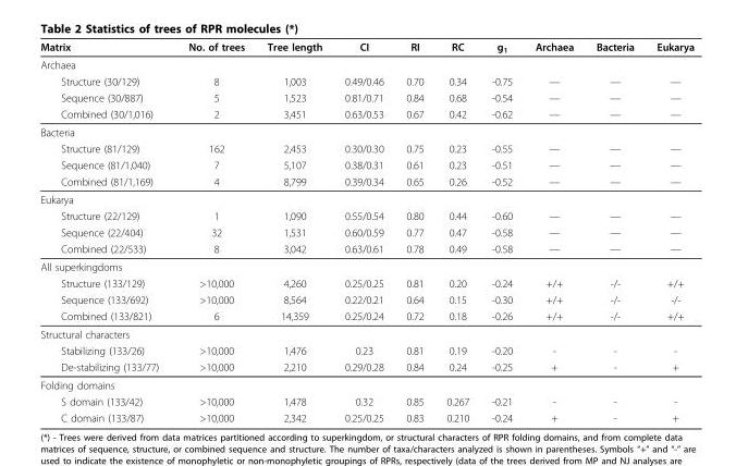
<table><thead><tr><td>Matrix</td><td>No. of trees</td><td>Tree length</td><td>CI</td><td>RI</td><td>RC</td><td>g1</td><td>Archaea</td><td>Bacteria</td><td>Eukarya</td></tr></thead><tbody><tr><td colspan="10">Archaea</td></tr><tr><td>Structure (30/129)</td><td>8</td><td>1,003</td><td>0.49/0.46</td><td>0.70</td><td>0.34</td><td>-0.75</td><td>—</td><td>—</td><td>—</td></tr><tr><td>Sequence (30/887)</td><td>5</td><td>1,523</td><td>0.81/0.71</td><td>0.84</td><td>0.68</td><td>-0.54</td><td>—</td><td>—</td><td>—</td></tr><tr><td>Combined (30/1,016)</td><td>2</td><td>3,451</td><td>0.63/0.53</td><td>0.67</td><td>0.42</td><td>-0.62</td><td>—</td><td>—</td><td>—</td></tr><tr><td colspan="10">Bacteria</td></tr><tr><td>Structure (81/129)</td><td>162</td><td>2,453</td><td>0.30/0.30</td><td>0.75</td><td>0.23</td><td>-0.55</td><td>—</td><td>—</td><td>—</td></tr><tr><td>Sequence (81/1,040)</td><td>7</td><td>5,107</td><td>0.38/0.31</td><td>0.61</td><td>0.23</td><td>-0.51</td><td>—</td><td>—</td><td>—</td></tr><tr><td>Combined (81/1,169)</td><td>4</td><td>8,799</td><td>0.39/0.34</td><td>0.65</td><td>0.26</td><td>-0.52</td><td>—</td><td>—</td><td>—</td></tr><tr><td colspan="10">Eukarya</td></tr><tr><td>Structure (22/129)</td><td>1</td><td>1,090</td><td>0.55/0.54</td><td>0.80</td><td>0.44</td><td>-0.60</td><td>—</td><td>—</td><td>—</td></tr><tr><td>Sequence (22/404)</td><td>32</td><td>1,531</td><td>0.60/0.59</td><td>0.77</td><td>0.47</td><td>-0.58</td><td>—</td><td>—</td><td>—</td></tr><tr><td>Combined (22/533)</td><td>8</td><td>3,042</td><td>0.63/0.61</td><td>0.78</td><td>0.49</td><td>-0.58</td><td>—</td><td>—</td><td>—</td></tr><tr><td colspan="10">All superkingdoms</td></tr><tr><td>Structure (133/129)</td><td>&gt;10,000</td><td>4,260</td><td>0.25/0.25</td><td>0.81</td><td>0.20</td><td>-0.24</td><td>+/+</td><td>-/-</td><td>+/+</td></tr><tr><td>Sequence (133/692)</td><td>&gt;10,000</td><td>8,564</td><td>0.22/0.21</td><td>0.64</td><td>0.15</td><td>-0.30</td><td>+/+</td><td>-/-</td><td>-/-</td></tr><tr><td>Combined (133/821)</td><td>6</td><td>14,359</td><td>0.25/0.24</td><td>0.72</td><td>0.18</td><td>-0.26</td><td>+/+</td><td>-/-</td><td>+/+</td></tr><tr><td colspan="10">Structural characters</td></tr><tr><td>Stabilizing (133/26)</td><td>&gt;10,000</td><td>1,476</td><td>0.23</td><td>0.81</td><td>0.19</td><td>-0.20</td><td>-</td><td>-</td><td>-</td></tr><tr><td>De-stabilizing (133/77)</td><td>&gt;10,000</td><td>2,210</td><td>0.29/0.28</td><td>0.84</td><td>0.24</td><td>-0.25</td><td>+</td><td>-</td><td>+</td></tr><tr><td colspan="10">Folding domains</td></tr><tr><td>S domain (133/42)</td><td>&gt;10,000</td><td>1,478</td><td>0.32</td><td>0.85</td><td>0.267</td><td>-0.21</td><td>-</td><td>-</td><td>-</td></tr><tr><td>C domain (133/87)</td><td>&gt;10,000</td><td>2,342</td><td>0.25/0.25</td><td>0.83</td><td>0.210</td><td>-0.24</td><td>+</td><td>-</td><td>+</td></tr></tbody></table>